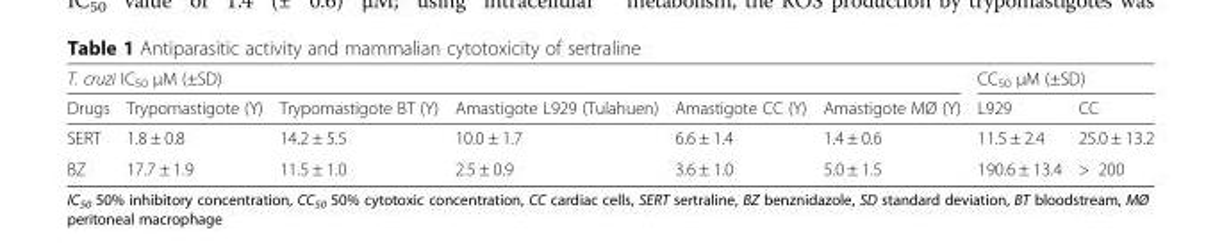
<table><thead><tr><td colspan="6">T. cruzi IC<sub>50</sub> μM (±SD)</td><td colspan="2">CC<sub>50</sub> μM (±SD)</td></tr><tr><td>Drugs</td><td>Trypomastigote (Y)</td><td>Trypomastigote BT (Y)</td><td>Amastigote L929 (Tulahuen)</td><td>Amastigote CC (Y)</td><td>Amastigote MØ (Y)</td><td>L929</td><td>CC</td></tr></thead><tbody><tr><td>SERT</td><td>1.8 ± 0.8</td><td>14.2 ± 5.5</td><td>10.0 ± 1.7</td><td>6.6 ± 1.4</td><td>1.4 ± 0.6</td><td>11.5 ± 2.4</td><td>25.0 ± 13.2</td></tr><tr><td>BZ</td><td>17.7 ± 1.9</td><td>11.5 ± 1.0</td><td>2.5 ± 0.9</td><td>3.6 ± 1.0</td><td>5.0 ± 1.5</td><td>190.6 ± 13.4</td><td>&gt; 200</td></tr></tbody></table>